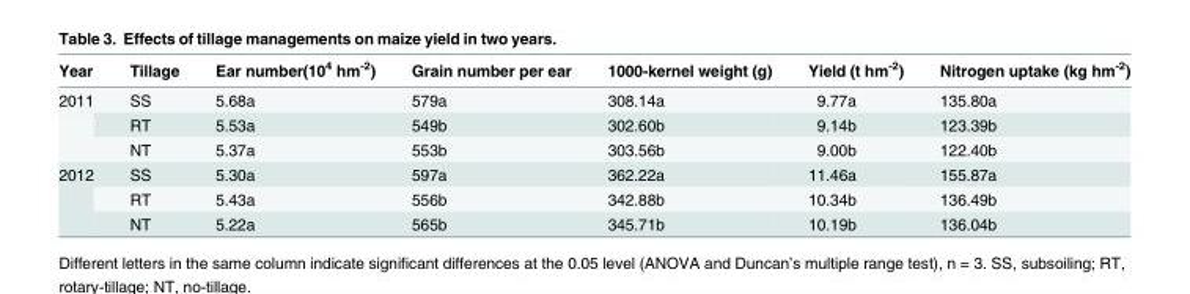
<table><thead><tr><td>Year</td><td>Tillage</td><td>Ear number(10<sup>4</sup> hm<sup>-2</sup>)</td><td>Grain number per ear</td><td>1000-kernel weight (g)</td><td>Yield (t hm<sup>-2</sup>)</td><td>Nitrogen uptake (kg hm<sup>-2</sup>)</td></tr></thead><tbody><tr><td rowspan="3">2011</td><td>SS</td><td>5.68a</td><td>579a</td><td>308.14a</td><td>9.77a</td><td>135.80a</td></tr><tr><td>RT</td><td>5.53a</td><td>549b</td><td>302.60b</td><td>9.14b</td><td>123.39b</td></tr><tr><td>NT</td><td>5.37a</td><td>553b</td><td>303.56b</td><td>9.00b</td><td>122.40b</td></tr><tr><td rowspan="3">2012</td><td>SS</td><td>5.30a</td><td>597a</td><td>362.22a</td><td>11.46a</td><td>155.87a</td></tr><tr><td>RT</td><td>5.43a</td><td>556b</td><td>342.88b</td><td>10.34b</td><td>136.49b</td></tr><tr><td>NT</td><td>5.22a</td><td>565b</td><td>345.71b</td><td>10.19b</td><td>136.04b</td></tr></tbody></table>